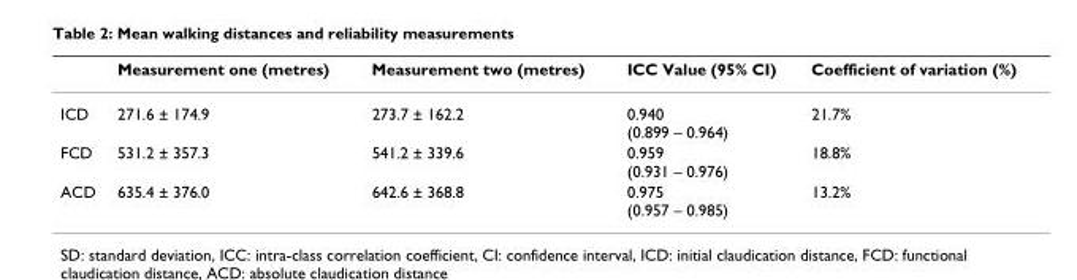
<table><thead><tr><td></td><td>Measurement one (metres)</td><td>Measurement two (metres)</td><td>ICC Value (95% CI)</td><td>Coefficient of variation (%)</td></tr></thead><tbody><tr><td>ICD</td><td>271.6 ± 174.9</td><td>273.7 ± 162.2</td><td>0.940 (0.899 – 0.964)</td><td>21.7%</td></tr><tr><td>FCD</td><td>531.2 ± 357.3</td><td>541.2 ± 339.6</td><td>0.959 (0.931 – 0.976)</td><td>18.8%</td></tr><tr><td>ACD</td><td>635.4 ± 376.0</td><td>642.6 ± 368.8</td><td>0.975 (0.957 – 0.985)</td><td>13.2%</td></tr></tbody></table>